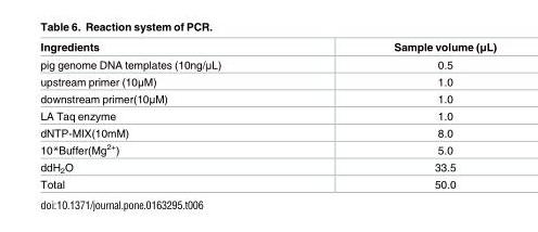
<table><thead><tr><td>Ingredients</td><td>Sample volume (μL)</td></tr></thead><tbody><tr><td>pig genome DNA templates (10ng/μL)</td><td>0.5</td></tr><tr><td>upstream primer (10μM)</td><td>1.0</td></tr><tr><td>downstream primer(10μM)</td><td>1.0</td></tr><tr><td>LA Taq enzyme</td><td>1.0</td></tr><tr><td>dNTP-MIX(10mM)</td><td>8.0</td></tr><tr><td>10*Buffer(Mg<sup>2+</sup>)</td><td>5.0</td></tr><tr><td>ddH<sub>2</sub>O</td><td>33.5</td></tr><tr><td>Total</td><td>50.0</td></tr></tbody></table>